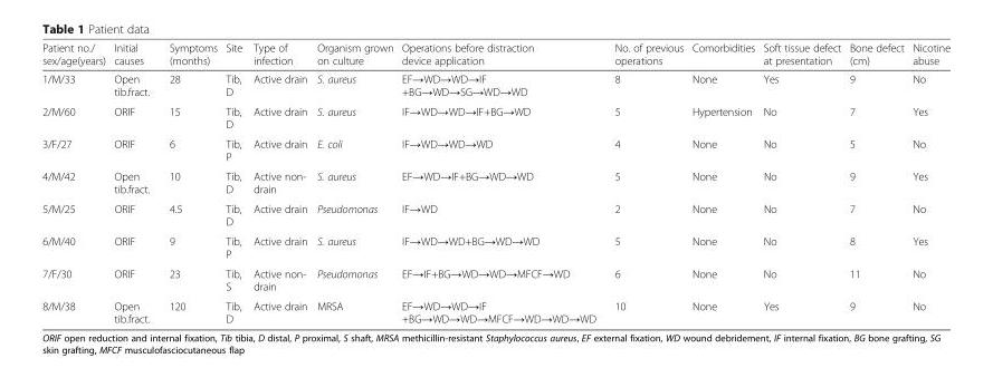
<table><thead><tr><td>Patient no./ sex/age(years)</td><td>Initial causes</td><td>Symptoms (months)</td><td>Site</td><td>Type of infection</td><td>Organism grown on culture</td><td>Operations before distraction device application</td><td>No. of previous operations</td><td>Comorbidities</td><td>Soft tissue defect at presentation</td><td>Bone defect (cm)</td><td>Nicotine abuse</td></tr></thead><tbody><tr><td>1/M/33</td><td>Open tib.fract.</td><td>28</td><td>Tib, D</td><td>Active drain</td><td>S. aureus</td><td>EF→WD→WD→IF +BG→WD→SG→WD→WD</td><td>8</td><td>None</td><td>Yes</td><td>9</td><td>No</td></tr><tr><td>2/M/60</td><td>ORIF</td><td>15</td><td>Tib, D</td><td>Active drain</td><td>S. aureus</td><td>IF→WD→WD→IF+BG→WD</td><td>5</td><td>Hypertension</td><td>No</td><td>7</td><td>Yes</td></tr><tr><td>3/F/27</td><td>ORIF</td><td>6</td><td>Tib, P</td><td>Active drain</td><td>E. coli</td><td>IF→WD→WD→WD</td><td>4</td><td>None</td><td>No</td><td>5</td><td>No</td></tr><tr><td>4/M/42</td><td>Open tib.fract.</td><td>10</td><td>Tib, D</td><td>Active non- drain</td><td>S. aureus</td><td>EF→WD→IF+BG→WD→WD</td><td>5</td><td>None</td><td>No</td><td>9</td><td>Yes</td></tr><tr><td>5/M/25</td><td>ORIF</td><td>4.5</td><td>Tib, D</td><td>Active drain</td><td>Pseudomonas</td><td>IF→WD</td><td>2</td><td>None</td><td>No</td><td>7</td><td>No</td></tr><tr><td>6/M/40</td><td>ORIF</td><td>9</td><td>Tib, P</td><td>Active drain</td><td>S. aureus</td><td>IF→WD→WD+BG→WD→WD</td><td>5</td><td>None</td><td>No</td><td>8</td><td>Yes</td></tr><tr><td>7/F/30</td><td>ORIF</td><td>23</td><td>Tib, S</td><td>Active non- drain</td><td>Pseudomonas</td><td>EF→IF+BG→WD→WD→MFCF→WD</td><td>6</td><td>None</td><td>No</td><td>11</td><td>No</td></tr><tr><td>8/M/38</td><td>Open tib.fract.</td><td>120</td><td>Tib, D</td><td>Active drain</td><td>MRSA</td><td>EF→WD→WD→IF +BG→WD→WD→MFCF→WD→WD→WD</td><td>10</td><td>None</td><td>Yes</td><td>9</td><td>No</td></tr></tbody></table>